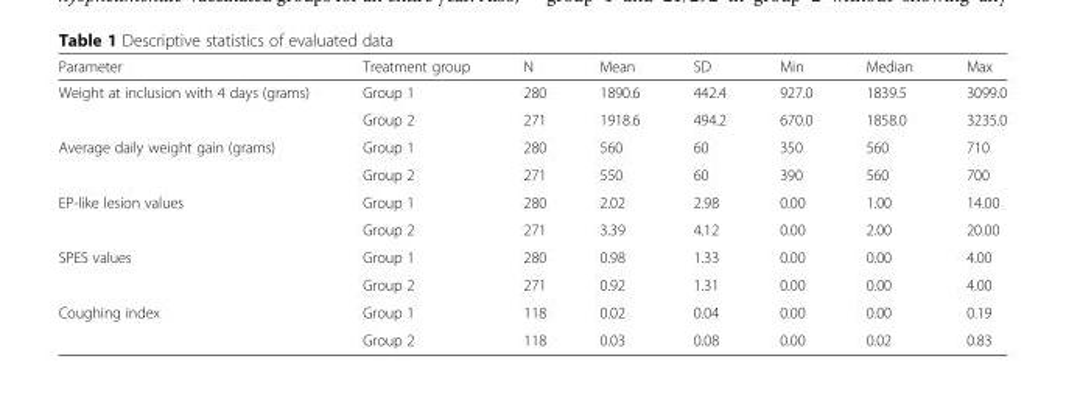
<table><thead><tr><td>Parameter</td><td>Treatment group</td><td>N</td><td>Mean</td><td>SD</td><td>Min</td><td>Median</td><td>Max</td></tr></thead><tbody><tr><td rowspan="2">Weight at inclusion with 4 days (grams)</td><td>Group 1</td><td>280</td><td>1890.6</td><td>442.4</td><td>927.0</td><td>1839.5</td><td>3099.0</td></tr><tr><td>Group 2</td><td>271</td><td>1918.6</td><td>494.2</td><td>670.0</td><td>1858.0</td><td>3235.0</td></tr><tr><td rowspan="2">Average daily weight gain (grams)</td><td>Group 1</td><td>280</td><td>560</td><td>60</td><td>350</td><td>560</td><td>710</td></tr><tr><td>Group 2</td><td>271</td><td>550</td><td>60</td><td>390</td><td>560</td><td>700</td></tr><tr><td rowspan="2">EP-like lesion values</td><td>Group 1</td><td>280</td><td>2.02</td><td>2.98</td><td>0.00</td><td>1.00</td><td>14.00</td></tr><tr><td>Group 2</td><td>271</td><td>3.39</td><td>4.12</td><td>0.00</td><td>2.00</td><td>20.00</td></tr><tr><td rowspan="2">SPES values</td><td>Group 1</td><td>280</td><td>0.98</td><td>1.33</td><td>0.00</td><td>0.00</td><td>4.00</td></tr><tr><td>Group 2</td><td>271</td><td>0.92</td><td>1.31</td><td>0.00</td><td>0.00</td><td>4.00</td></tr><tr><td rowspan="2">Coughing index</td><td>Group 1</td><td>118</td><td>0.02</td><td>0.04</td><td>0.00</td><td>0.00</td><td>0.19</td></tr><tr><td>Group 2</td><td>118</td><td>0.03</td><td>0.08</td><td>0.00</td><td>0.02</td><td>0.83</td></tr></tbody></table>